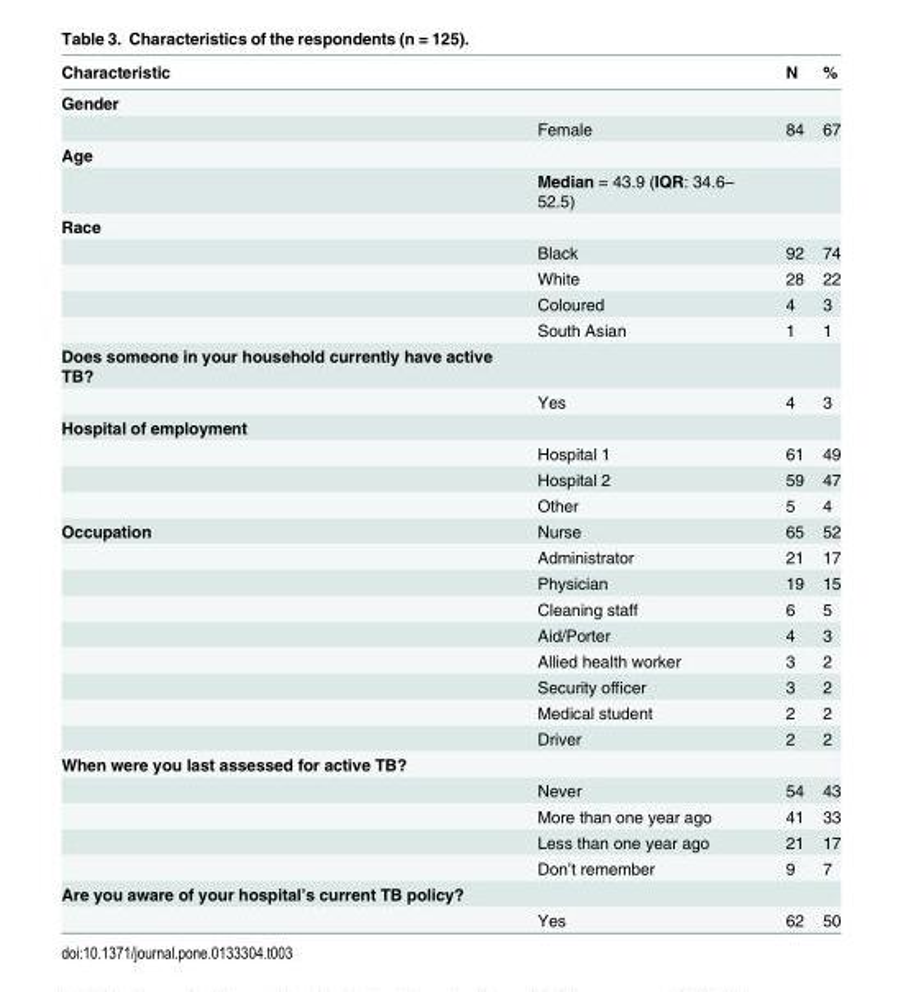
<table><thead><tr><td>Characteristic</td><td></td><td>N</td><td>%</td></tr></thead><tbody><tr><td colspan="4">Gender</td></tr><tr><td></td><td>Female</td><td>84</td><td>67</td></tr><tr><td colspan="4">Age</td></tr><tr><td></td><td>Median = 43.9 (IQR: 34.6– 52.5)</td><td></td><td></td></tr><tr><td colspan="4">Race</td></tr><tr><td></td><td>Black</td><td>92</td><td>74</td></tr><tr><td></td><td>White</td><td>28</td><td>22</td></tr><tr><td></td><td>Coloured</td><td>4</td><td>3</td></tr><tr><td></td><td>South Asian</td><td>1</td><td>1</td></tr><tr><td colspan="4">Does someone in your household currently have active TB?</td></tr><tr><td></td><td>Yes</td><td>4</td><td>3</td></tr><tr><td colspan="4">Hospital of employment</td></tr><tr><td></td><td>Hospital 1</td><td>61</td><td>49</td></tr><tr><td></td><td>Hospital 2</td><td>59</td><td>47</td></tr><tr><td></td><td>Other</td><td>5</td><td>4</td></tr><tr><td rowspan="9">Occupation</td><td>Nurse</td><td>65</td><td>52</td></tr><tr><td>Administrator</td><td>21</td><td>17</td></tr><tr><td>Physician</td><td>19</td><td>15</td></tr><tr><td>Cleaning staff</td><td>6</td><td>5</td></tr><tr><td>Aid/Porter</td><td>4</td><td>3</td></tr><tr><td>Allied health worker</td><td>3</td><td>2</td></tr><tr><td>Security officer</td><td>3</td><td>2</td></tr><tr><td>Medical student</td><td>2</td><td>2</td></tr><tr><td>Driver</td><td>2</td><td>2</td></tr><tr><td colspan="4">When were you last assessed for active TB?</td></tr><tr><td></td><td>Never</td><td>54</td><td>43</td></tr><tr><td></td><td>More than one year ago</td><td>41</td><td>33</td></tr><tr><td></td><td>Less than one year ago</td><td>21</td><td>17</td></tr><tr><td></td><td>Don’t remember</td><td>9</td><td>7</td></tr><tr><td colspan="4">Are you aware of your hospital’s current TB policy?</td></tr><tr><td></td><td>Yes</td><td>62</td><td>50</td></tr></tbody></table>